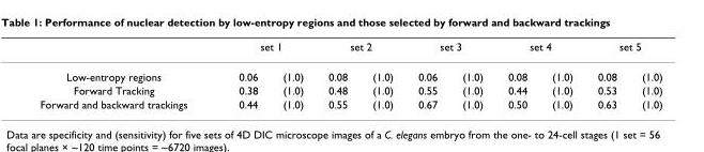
<table><thead><tr><td rowspan="2">Low-entropy regions</td><td colspan="2">set 1</td><td colspan="2">set 2</td><td colspan="2">set 3</td><td colspan="2">set 4</td><td colspan="2">set 5</td></tr><tr><td>0.06</td><td>(1.0)</td><td>0.08</td><td>(1.0)</td><td>0.06</td><td>(1.0)</td><td>0.08</td><td>(1.0)</td><td>0.08</td><td>(1.0)</td></tr></thead><tbody><tr><td>Forward Tracking</td><td>0.38</td><td>(1.0)</td><td>0.48</td><td>(1.0)</td><td>0.55</td><td>(1.0)</td><td>0.44</td><td>(1.0)</td><td>0.53</td><td>(1.0)</td></tr><tr><td>Forward and backward trackings</td><td>0.44</td><td>(1.0)</td><td>0.55</td><td>(1.0)</td><td>0.67</td><td>(1.0)</td><td>0.50</td><td>(1.0)</td><td>0.63</td><td>(1.0)</td></tr></tbody></table>